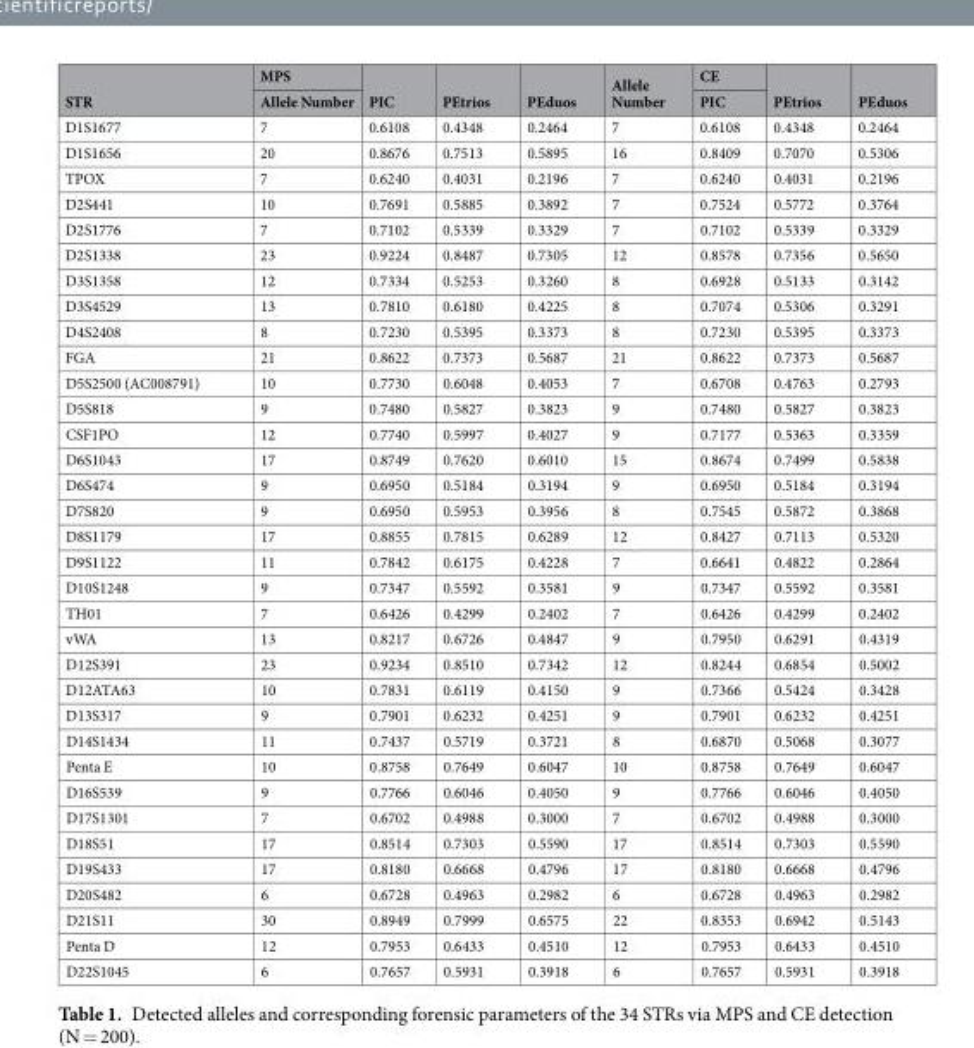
<table><thead><tr><td rowspan="2">STR</td><td rowspan="2">MPS Allele Number</td><td rowspan="2">PIC</td><td rowspan="2">PEtrios</td><td rowspan="2">PEduos</td><td rowspan="2">Allele Number</td><td rowspan="2">CE PIC</td><td rowspan="2">PEtrios</td><td rowspan="2">PEduos</td></tr><tr></tr></thead><tbody><tr><td>D1S1677</td><td>7</td><td>0.6108</td><td>0.4348</td><td>0.2464</td><td>7</td><td>0.6108</td><td>0.4348</td><td>0.2464</td></tr><tr><td>D1S1656</td><td>20</td><td>0.8676</td><td>0.7513</td><td>0.5895</td><td>16</td><td>0.8409</td><td>0.7070</td><td>0.5306</td></tr><tr><td>TPOX</td><td>7</td><td>0.6240</td><td>0.4031</td><td>0.2196</td><td>7</td><td>0.6240</td><td>0.4031</td><td>0.2196</td></tr><tr><td>D2S441</td><td>10</td><td>0.7691</td><td>0.5885</td><td>0.3892</td><td>7</td><td>0.7524</td><td>0.5772</td><td>0.3764</td></tr><tr><td>D2S1776</td><td>7</td><td>0.7102</td><td>0.5339</td><td>0.3329</td><td>7</td><td>0.7102</td><td>0.5339</td><td>0.3329</td></tr><tr><td>D2S1338</td><td>23</td><td>0.9224</td><td>0.8487</td><td>0.7305</td><td>12</td><td>0.8578</td><td>0.7356</td><td>0.5650</td></tr><tr><td>D3S1358</td><td>12</td><td>0.7334</td><td>0.5253</td><td>0.3260</td><td>8</td><td>0.6928</td><td>0.5133</td><td>0.3142</td></tr><tr><td>D3S4529</td><td>13</td><td>0.7810</td><td>0.6180</td><td>0.4225</td><td>8</td><td>0.7074</td><td>0.5306</td><td>0.3291</td></tr><tr><td>D4S2408</td><td>8</td><td>0.7230</td><td>0.5395</td><td>0.3373</td><td>8</td><td>0.7230</td><td>0.5395</td><td>0.3373</td></tr><tr><td>FGA</td><td>21</td><td>0.8622</td><td>0.7373</td><td>0.5687</td><td>21</td><td>0.8622</td><td>0.7373</td><td>0.5687</td></tr><tr><td>D5S2500 (AC008791)</td><td>10</td><td>0.7730</td><td>0.6048</td><td>0.4053</td><td>7</td><td>0.6708</td><td>0.4763</td><td>0.2793</td></tr><tr><td>D5S818</td><td>9</td><td>0.7480</td><td>0.5827</td><td>0.3823</td><td>9</td><td>0.7480</td><td>0.5827</td><td>0.3823</td></tr><tr><td>CSF1PO</td><td>12</td><td>0.7740</td><td>0.5997</td><td>0.4027</td><td>9</td><td>0.7177</td><td>0.5363</td><td>0.3359</td></tr><tr><td>D6S1043</td><td>17</td><td>0.8749</td><td>0.7620</td><td>0.6010</td><td>15</td><td>0.8674</td><td>0.7499</td><td>0.5838</td></tr><tr><td>D6S474</td><td>9</td><td>0.6950</td><td>0.5184</td><td>0.3194</td><td>9</td><td>0.6950</td><td>0.5184</td><td>0.3194</td></tr><tr><td>D7S820</td><td>9</td><td>0.6950</td><td>0.5953</td><td>0.3956</td><td>8</td><td>0.7545</td><td>0.5872</td><td>0.3868</td></tr><tr><td>D8S1179</td><td>17</td><td>0.8855</td><td>0.7815</td><td>0.6289</td><td>12</td><td>0.8427</td><td>0.7113</td><td>0.5320</td></tr><tr><td>D9S1122</td><td>11</td><td>0.7842</td><td>0.6175</td><td>0.4228</td><td>7</td><td>0.6641</td><td>0.4822</td><td>0.2864</td></tr><tr><td>D10S1248</td><td>9</td><td>0.7347</td><td>0.5592</td><td>0.3581</td><td>9</td><td>0.7347</td><td>0.5592</td><td>0.3581</td></tr><tr><td>TH01</td><td>7</td><td>0.6426</td><td>0.4299</td><td>0.2402</td><td>7</td><td>0.6426</td><td>0.4299</td><td>0.2402</td></tr><tr><td>vWA</td><td>13</td><td>0.8217</td><td>0.6726</td><td>0.4847</td><td>9</td><td>0.7950</td><td>0.6291</td><td>0.4319</td></tr><tr><td>D12S391</td><td>23</td><td>0.9234</td><td>0.8510</td><td>0.7342</td><td>12</td><td>0.8244</td><td>0.6854</td><td>0.5002</td></tr><tr><td>D12ATA63</td><td>10</td><td>0.7831</td><td>0.6119</td><td>0.4150</td><td>9</td><td>0.7366</td><td>0.5424</td><td>0.3428</td></tr><tr><td>D13S317</td><td>9</td><td>0.7901</td><td>0.6232</td><td>0.4251</td><td>9</td><td>0.7901</td><td>0.6232</td><td>0.4251</td></tr><tr><td>D14S1434</td><td>11</td><td>0.7437</td><td>0.5719</td><td>0.3721</td><td>8</td><td>0.6870</td><td>0.5068</td><td>0.3077</td></tr><tr><td>Penta E</td><td>10</td><td>0.8758</td><td>0.7649</td><td>0.6047</td><td>10</td><td>0.8758</td><td>0.7649</td><td>0.6047</td></tr><tr><td>D16S539</td><td>9</td><td>0.7766</td><td>0.6046</td><td>0.4050</td><td>9</td><td>0.7766</td><td>0.6046</td><td>0.4050</td></tr><tr><td>D17S1301</td><td>7</td><td>0.6702</td><td>0.4988</td><td>0.3000</td><td>7</td><td>0.6702</td><td>0.4988</td><td>0.3000</td></tr><tr><td>D18S51</td><td>17</td><td>0.8514</td><td>0.7303</td><td>0.5590</td><td>17</td><td>0.8514</td><td>0.7303</td><td>0.5590</td></tr><tr><td>D19S433</td><td>17</td><td>0.8180</td><td>0.6668</td><td>0.4796</td><td>17</td><td>0.8180</td><td>0.6668</td><td>0.4796</td></tr><tr><td>D20S482</td><td>6</td><td>0.6728</td><td>0.4963</td><td>0.2982</td><td>6</td><td>0.6728</td><td>0.4963</td><td>0.2982</td></tr><tr><td>D21S11</td><td>30</td><td>0.8949</td><td>0.7999</td><td>0.6575</td><td>22</td><td>0.8353</td><td>0.6942</td><td>0.5143</td></tr><tr><td>Penta D</td><td>12</td><td>0.7953</td><td>0.6433</td><td>0.4510</td><td>12</td><td>0.7953</td><td>0.6433</td><td>0.4510</td></tr><tr><td>D22S1045</td><td>6</td><td>0.7657</td><td>0.5931</td><td>0.3918</td><td>6</td><td>0.7657</td><td>0.5931</td><td>0.3918</td></tr></tbody></table>